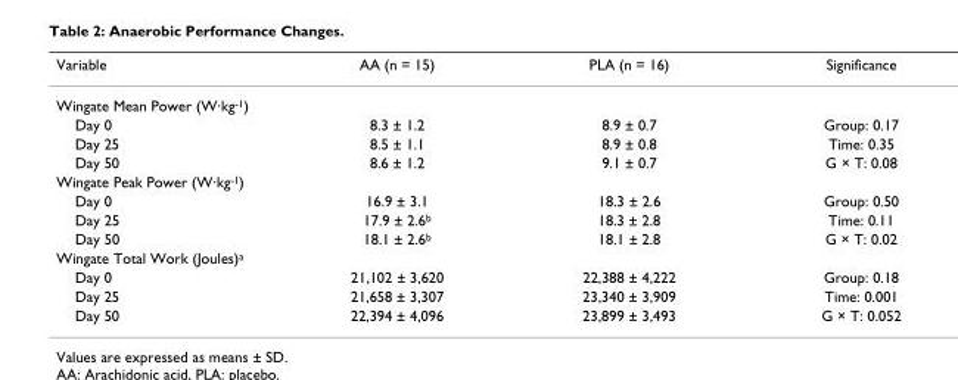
<table><thead><tr><td>Variable</td><td>AA (n = 15)</td><td>PLA (n = 16)</td><td>Significance</td></tr></thead><tbody><tr><td colspan="4">Wingate Mean Power (W·kg<sup>-1</sup>)</td></tr><tr><td>Day 0</td><td>8.3 ± 1.2</td><td>8.9 ± 0.7</td><td>Group: 0.17</td></tr><tr><td>Day 25</td><td>8.5 ± 1.1</td><td>8.9 ± 0.8</td><td>Time: 0.35</td></tr><tr><td>Day 50</td><td>8.6 ± 1.2</td><td>9.1 ± 0.7</td><td>G × T: 0.08</td></tr><tr><td colspan="4">Wingate Peak Power (W·kg<sup>-1</sup>)</td></tr><tr><td>Day 0</td><td>16.9 ± 3.1</td><td>18.3 ± 2.6</td><td>Group: 0.50</td></tr><tr><td>Day 25</td><td>17.9 ± 2.6<sup>b</sup></td><td>18.3 ± 2.8</td><td>Time: 0.11</td></tr><tr><td>Day 50</td><td>18.1 ± 2.6<sup>b</sup></td><td>18.1 ± 2.8</td><td>G × T: 0.02</td></tr><tr><td colspan="4">Wingate Total Work (Joules)<sup>a</sup></td></tr><tr><td>Day 0</td><td>21,102 ± 3,620</td><td>22,388 ± 4,222</td><td>Group: 0.18</td></tr><tr><td>Day 25</td><td>21,658 ± 3,307</td><td>23,340 ± 3,909</td><td>Time: 0.001</td></tr><tr><td>Day 50</td><td>22,394 ± 4,096</td><td>23,899 ± 3,493</td><td>G × T: 0.052</td></tr></tbody></table>